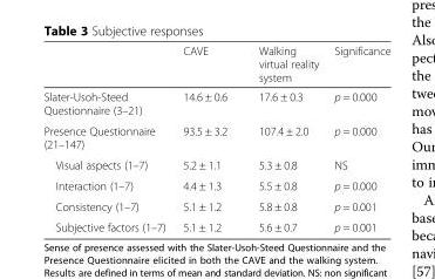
<table><thead><tr><td></td><td>CAVE</td><td>Walking virtual reality system</td><td>Significance</td></tr></thead><tbody><tr><td>Slater-Usoh-Steed Questionnaire (3–21)</td><td>14.6 ± 0.6</td><td>17.6 ± 0.3</td><td>p = 0.000</td></tr><tr><td>Presence Questionnaire (21–147)</td><td>93.5 ± 3.2</td><td>107.4 ± 2.0</td><td>p = 0.000</td></tr><tr><td>Visual aspects (1–7)</td><td>5.2 ± 1.1</td><td>5.3 ± 0.8</td><td>NS</td></tr><tr><td>Interaction (1–7)</td><td>4.4 ± 1.3</td><td>5.5 ± 0.8</td><td>p = 0.000</td></tr><tr><td>Consistency (1–7)</td><td>5.1 ± 1.2</td><td>5.8 ± 0.8</td><td>p = 0.001</td></tr><tr><td>Subjective factors (1–7)</td><td>5.1 ± 1.2</td><td>5.6 ± 0.7</td><td>p = 0.001</td></tr></tbody></table>